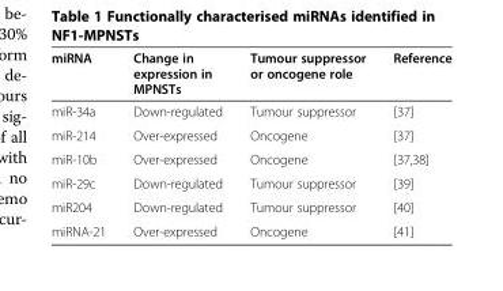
<table><thead><tr><td>miRNA</td><td>Change in expression in MPNSTs</td><td>Tumour suppressor or oncogene role</td><td>Reference</td></tr></thead><tbody><tr><td>miR-34a</td><td>Down-regulated</td><td>Tumour suppressor</td><td>[37]</td></tr><tr><td>miR-214</td><td>Over-expressed</td><td>Oncogene</td><td>[37]</td></tr><tr><td>miR-10b</td><td>Over-expressed</td><td>Oncogene</td><td>[37,38]</td></tr><tr><td>miR-29c</td><td>Down-regulated</td><td>Tumour suppressor</td><td>[39]</td></tr><tr><td>miR204</td><td>Down-regulated</td><td>Tumour suppressor</td><td>[40]</td></tr><tr><td>miRNA-21</td><td>Over-expressed</td><td>Oncogene</td><td>[41]</td></tr></tbody></table>